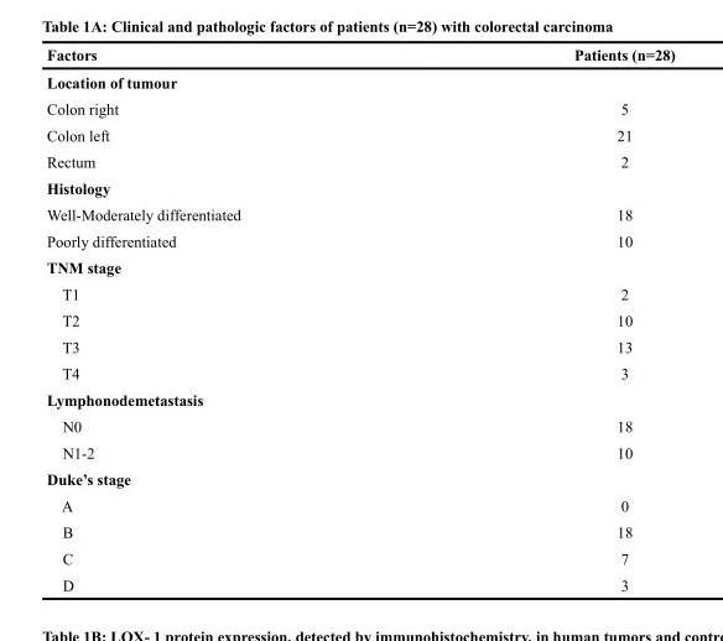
<table><thead><tr><td>Factors</td><td>Patients (n=28)</td></tr></thead><tbody><tr><td colspan="2">Location of tumour</td></tr><tr><td>Colon right</td><td>5</td></tr><tr><td>Colon left</td><td>21</td></tr><tr><td>Rectum</td><td>2</td></tr><tr><td colspan="2">Histology</td></tr><tr><td>Well-Moderately differentiated</td><td>18</td></tr><tr><td>Poorly differentiated</td><td>10</td></tr><tr><td colspan="2">TNM stage</td></tr><tr><td>T1</td><td>2</td></tr><tr><td>T2</td><td>10</td></tr><tr><td>T3</td><td>13</td></tr><tr><td>T4</td><td>3</td></tr><tr><td colspan="2">Lymphonodemetastasis</td></tr><tr><td>N0</td><td>18</td></tr><tr><td>N1-2</td><td>10</td></tr><tr><td colspan="2">Duke’s stage</td></tr><tr><td>A</td><td>0</td></tr><tr><td>B</td><td>18</td></tr><tr><td>C</td><td>7</td></tr><tr><td>D</td><td>3</td></tr></tbody></table>